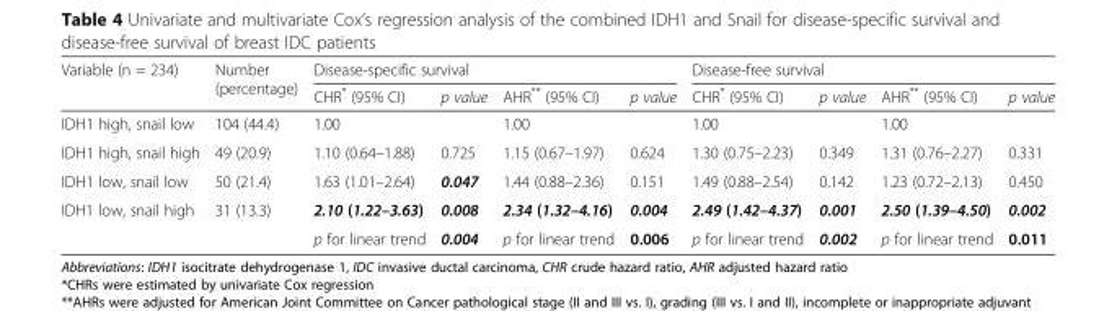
<table><thead><tr><td rowspan="2">Variable (n = 234)</td><td rowspan="2">Number (percentage)</td><td colspan="4">Disease-specific survival</td><td colspan="4">Disease-free survival</td></tr><tr><td>CHR* (95% CI)</td><td>p value</td><td>AHR** (95% CI)</td><td>p value</td><td>CHR* (95% CI)</td><td>p value</td><td>AHR** (95% CI)</td><td>p value</td></tr></thead><tbody><tr><td>IDH1 high, snail low</td><td>104 (44.4)</td><td>1.00</td><td></td><td>1.00</td><td></td><td>1.00</td><td></td><td>1.00</td><td></td></tr><tr><td>IDH1 high, snail high</td><td>49 (20.9)</td><td>1.10 (0.64–1.88)</td><td>0.725</td><td>1.15 (0.67–1.97)</td><td>0.624</td><td>1.30 (0.75–2.23)</td><td>0.349</td><td>1.31 (0.76–2.27)</td><td>0.331</td></tr><tr><td>IDH1 low, snail low</td><td>50 (21.4)</td><td>1.63 (1.01–2.64)</td><td>0.047</td><td>1.44 (0.88–2.36)</td><td>0.151</td><td>1.49 (0.88–2.54)</td><td>0.142</td><td>1.23 (0.72–2.13)</td><td>0.450</td></tr><tr><td rowspan="2">IDH1 low, snail high</td><td>31 (13.3)</td><td>2.10 (1.22–3.63)</td><td>0.008</td><td>2.34 (1.32–4.16)</td><td>0.004</td><td>2.49 (1.42–4.37)</td><td>0.001</td><td>2.50 (1.39–4.50)</td><td>0.002</td></tr><tr><td></td><td>p for linear trend</td><td>0.004</td><td>p for linear trend</td><td>0.006</td><td>p for linear trend</td><td>0.002</td><td>p for linear trend</td><td>0.011</td></tr></tbody></table>